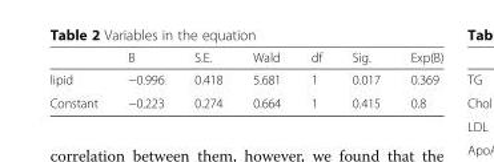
<table><thead><tr><td></td><td>B</td><td>S.E.</td><td>Wald</td><td>df</td><td>Sig.</td><td>Exp(B)</td></tr></thead><tbody><tr><td>lipid</td><td>−0.996</td><td>0.418</td><td>5.681</td><td>1</td><td>0.017</td><td>0.369</td></tr><tr><td>Constant</td><td>−0.223</td><td>0.274</td><td>0.664</td><td>1</td><td>0.415</td><td>0.8</td></tr></tbody></table>